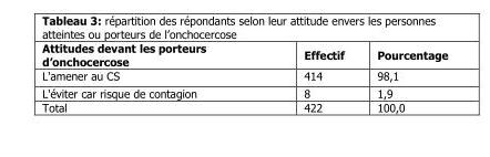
<table><thead><tr><td>Attitudes devant les porteurs d’onchocercose</td><td>Effectif</td><td>Pourcentage</td></tr></thead><tbody><tr><td>L&#x27;amener au CS</td><td>414</td><td>98,1</td></tr><tr><td>L&#x27;éviter car risque de contagion</td><td>8</td><td>1,9</td></tr><tr><td>Total</td><td>422</td><td>100,0</td></tr></tbody></table>